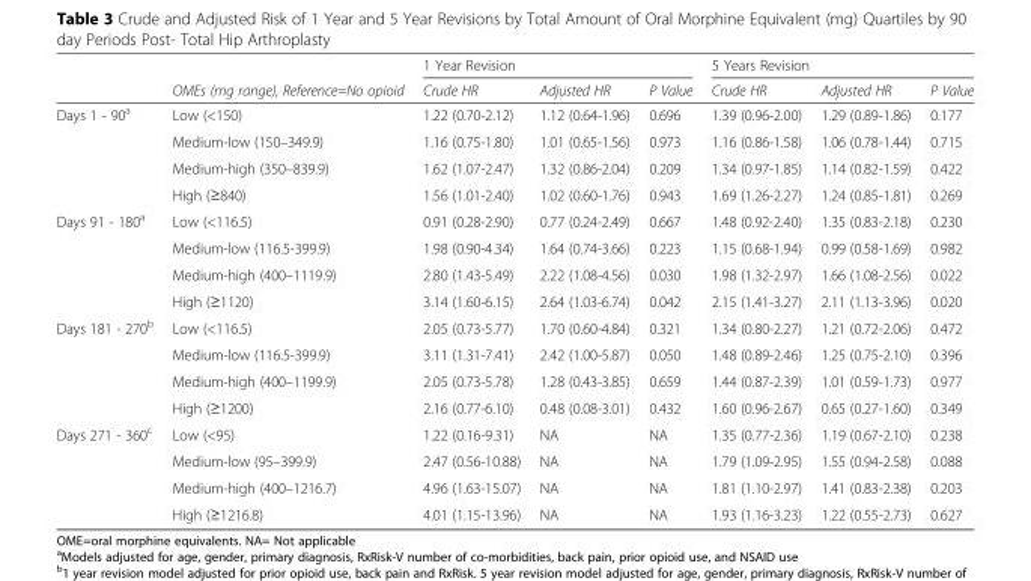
<table><thead><tr><td rowspan="2"></td><td rowspan="2">OMEs (mg range), Reference=No opioid</td><td colspan="3">1 Year Revision</td><td colspan="3">5 Years Revision</td></tr><tr><td>Crude HR</td><td>Adjusted HR</td><td>P Value</td><td>Crude HR</td><td>Adjusted HR</td><td>P Value</td></tr></thead><tbody><tr><td rowspan="4">Days 1 - 90<sup>a</sup></td><td>Low (&lt;150)</td><td>1.22 (0.70-2.12)</td><td>1.12 (0.64-1.96)</td><td>0.696</td><td>1.39 (0.96-2.00)</td><td>1.29 (0.89-1.86)</td><td>0.177</td></tr><tr><td>Medium-low (150–349.9)</td><td>1.16 (0.75-1.80)</td><td>1.01 (0.65-1.56)</td><td>0.973</td><td>1.16 (0.86-1.58)</td><td>1.06 (0.78-1.44)</td><td>0.715</td></tr><tr><td>Medium-high (350–839.9)</td><td>1.62 (1.07-2.47)</td><td>1.32 (0.86-2.04)</td><td>0.209</td><td>1.34 (0.97-1.85)</td><td>1.14 (0.82-1.59)</td><td>0.422</td></tr><tr><td>High (≥840)</td><td>1.56 (1.01-2.40)</td><td>1.02 (0.60-1.76)</td><td>0.943</td><td>1.69 (1.26-2.27)</td><td>1.24 (0.85-1.81)</td><td>0.269</td></tr><tr><td rowspan="4">Days 91 - 180<sup>a</sup></td><td>Low (&lt;116.5)</td><td>0.91 (0.28-2.90)</td><td>0.77 (0.24-2.49)</td><td>0.667</td><td>1.48 (0.92-2.40)</td><td>1.35 (0.83-2.18)</td><td>0.230</td></tr><tr><td>Medium-low (116.5-399.9)</td><td>1.98 (0.90-4.34)</td><td>1.64 (0.74-3.66)</td><td>0.223</td><td>1.15 (0.68-1.94)</td><td>0.99 (0.58-1.69)</td><td>0.982</td></tr><tr><td>Medium-high (400–1119.9)</td><td>2.80 (1.43-5.49)</td><td>2.22 (1.08-4.56)</td><td>0.030</td><td>1.98 (1.32-2.97)</td><td>1.66 (1.08-2.56)</td><td>0.022</td></tr><tr><td>High (≥1120)</td><td>3.14 (1.60-6.15)</td><td>2.64 (1.03-6.74)</td><td>0.042</td><td>2.15 (1.41-3.27)</td><td>2.11 (1.13-3.96)</td><td>0.020</td></tr><tr><td rowspan="4">Days 181 - 270<sup>b</sup></td><td>Low (&lt;116.5)</td><td>2.05 (0.73-5.77)</td><td>1.70 (0.60-4.84)</td><td>0.321</td><td>1.34 (0.80-2.27)</td><td>1.21 (0.72-2.06)</td><td>0.472</td></tr><tr><td>Medium-low (116.5-399.9)</td><td>3.11 (1.31-7.41)</td><td>2.42 (1.00-5.87)</td><td>0.050</td><td>1.48 (0.89-2.46)</td><td>1.25 (0.75-2.10)</td><td>0.396</td></tr><tr><td>Medium-high (400–1199.9)</td><td>2.05 (0.73-5.78)</td><td>1.28 (0.43-3.85)</td><td>0.659</td><td>1.44 (0.87-2.39)</td><td>1.01 (0.59-1.73)</td><td>0.977</td></tr><tr><td>High (≥1200)</td><td>2.16 (0.77-6.10)</td><td>0.48 (0.08-3.01)</td><td>0.432</td><td>1.60 (0.96-2.67)</td><td>0.65 (0.27-1.60)</td><td>0.349</td></tr><tr><td rowspan="4">Days 271 - 360<sup>c</sup></td><td>Low (&lt;95)</td><td>1.22 (0.16-9.31)</td><td>NA</td><td>NA</td><td>1.35 (0.77-2.36)</td><td>1.19 (0.67-2.10)</td><td>0.238</td></tr><tr><td>Medium-low (95–399.9)</td><td>2.47 (0.56-10.88)</td><td>NA</td><td>NA</td><td>1.79 (1.09-2.95)</td><td>1.55 (0.94-2.58)</td><td>0.088</td></tr><tr><td>Medium-high (400–1216.7)</td><td>4.96 (1.63-15.07)</td><td>NA</td><td>NA</td><td>1.81 (1.10-2.97)</td><td>1.41 (0.83-2.38)</td><td>0.203</td></tr><tr><td>High (≥1216.8)</td><td>4.01 (1.15-13.96)</td><td>NA</td><td>NA</td><td>1.93 (1.16-3.23)</td><td>1.22 (0.55-2.73)</td><td>0.627</td></tr></tbody></table>